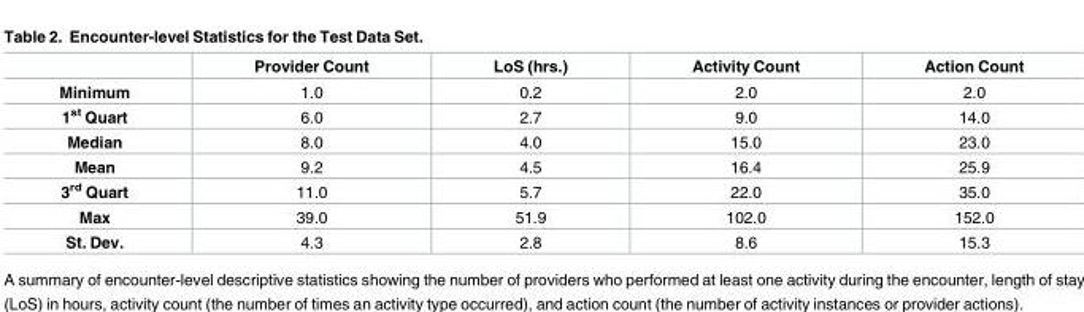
<table><thead><tr><td></td><td>Provider Count</td><td>LoS (hrs.)</td><td>Activity Count</td><td>Action Count</td></tr></thead><tbody><tr><td>Minimum</td><td>1.0</td><td>0.2</td><td>2.0</td><td>2.0</td></tr><tr><td>1<sup>st</sup> Quart</td><td>6.0</td><td>2.7</td><td>9.0</td><td>14.0</td></tr><tr><td>Median</td><td>8.0</td><td>4.0</td><td>15.0</td><td>23.0</td></tr><tr><td>Mean</td><td>9.2</td><td>4.5</td><td>16.4</td><td>25.9</td></tr><tr><td>3<sup>rd</sup> Quart</td><td>11.0</td><td>5.7</td><td>22.0</td><td>35.0</td></tr><tr><td>Max</td><td>39.0</td><td>51.9</td><td>102.0</td><td>152.0</td></tr><tr><td>St. Dev.</td><td>4.3</td><td>2.8</td><td>8.6</td><td>15.3</td></tr></tbody></table>